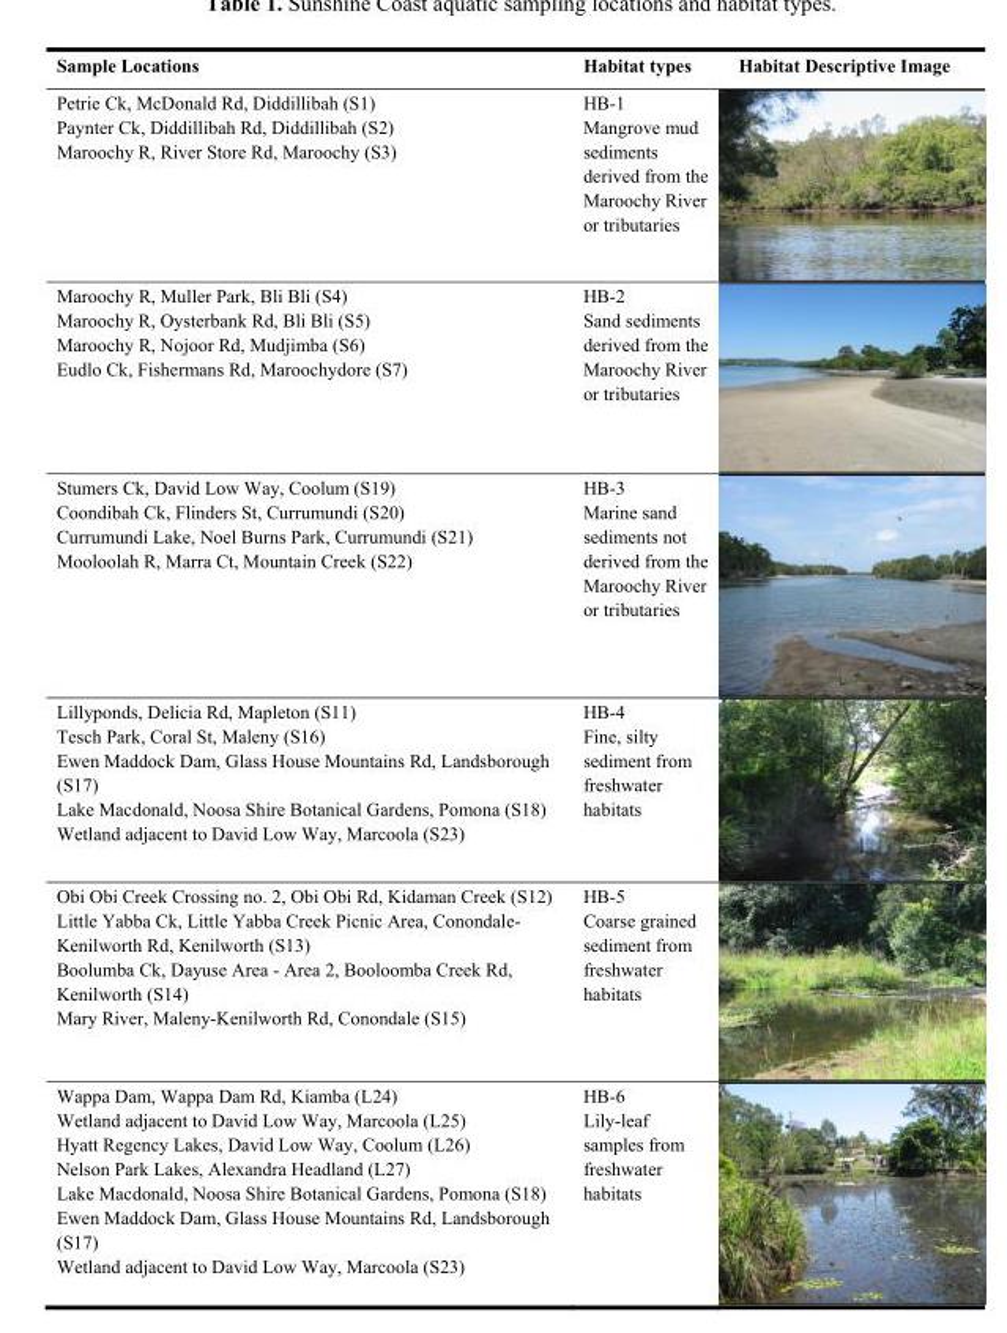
<table><thead><tr><td>Sample Locations</td><td>Habitat types</td><td>Habitat Descriptive Image</td></tr></thead><tbody><tr><td>Petrie Ck, McDonald Rd, Diddillibah (S1) Paynter Ck, Diddillibah Rd, Diddillibah (S2) Maroochy R, River Store Rd, Maroochy (S3)</td><td>HB-1 Mangrove mud sediments derived from the Maroochy River or tributaries</td><td></td></tr><tr><td>Maroochy R, Muller Park, Bli Bli (S4) Maroochy R, Oysterbank Rd, Bli Bli (S5) Maroochy R, Nojoor Rd, Mudjimba (S6) Eudlo Ck, Fishermans Rd, Maroochydore (S7)</td><td>HB-2 Sand sediments derived from the Maroochy River or tributaries</td><td></td></tr><tr><td>Stumers Ck, David Low Way, Coolum (S19) Coondibah Ck, Flinders St, Currumundi (S20) Currumundi Lake, Noel Burns Park, Currumundi (S21) Mooloolah R, Marra Ct, Mountain Creek (S22)</td><td>HB-3 Marine sand sediments not derived from the Maroochy River or tributaries</td><td></td></tr><tr><td>Lillyponds, Delicia Rd, Mapleton (S11) Tesch Park, Coral St, Maleny (S16) Ewen Maddock Dam, Glass House Mountains Rd, Landsborough (S17) Lake Macdonald, Noosa Shire Botanical Gardens, Pomona (S18) Wetland adjacent to David Low Way, Marcoola (S23)</td><td>HB-4 Fine, silty sediment from freshwater habitats</td><td></td></tr><tr><td>Obi Obi Creek Crossing no. 2, Obi Obi Rd, Kidaman Creek (S12) Little Yabba Ck, Little Yabba Creek Picnic Area, Conondale- Kenilworth Rd, Kenilworth (S13) Boolumba Ck, Dayuse Area - Area 2, Booloomba Creek Rd, Kenilworth (S14) Mary River, Maleny-Kenilworth Rd, Conondale (S15)</td><td>HB-5 Coarse grained sediment from freshwater habitats</td><td></td></tr><tr><td>Wappa Dam, Wappa Dam Rd, Kiamba (L24) Wetland adjacent to David Low Way, Marcoola (L25) Hyatt Regency Lakes, David Low Way, Coolum (L26) Nelson Park Lakes, Alexandra Headland (L27) Lake Macdonald, Noosa Shire Botanical Gardens, Pomona (S18) Ewen Maddock Dam, Glass House Mountains Rd, Landsborough (S17) Wetland adjacent to David Low Way, Marcoola (S23)</td><td>HB-6 Lily-leaf samples from freshwater habitats</td><td></td></tr></tbody></table>